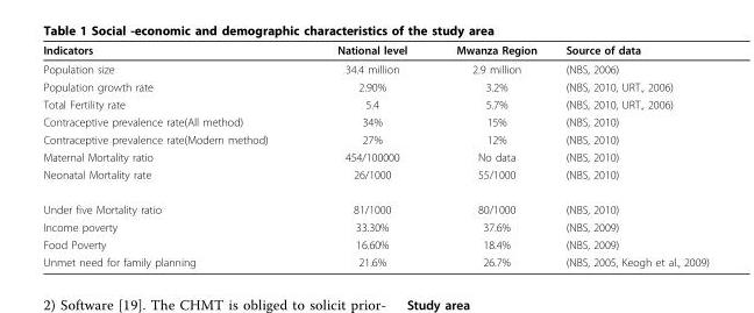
<table><thead><tr><td>Indicators</td><td>National level</td><td>Mwanza Region</td><td>Source of data</td></tr></thead><tbody><tr><td>Population size</td><td>34.4 million</td><td>2.9 million</td><td>(NBS, 2006)</td></tr><tr><td>Population growth rate</td><td>2.90%</td><td>3.2%</td><td>(NBS, 2010, URT., 2006)</td></tr><tr><td>Total Fertility rate</td><td>5.4</td><td>5.7%</td><td>(NBS, 2010, URT., 2006)</td></tr><tr><td>Contraceptive prevalence rate(All method)</td><td>34%</td><td>15%</td><td>(NBS, 2010)</td></tr><tr><td>Contraceptive prevalence rate(Modern method)</td><td>27%</td><td>12%</td><td>(NBS, 2010)</td></tr><tr><td>Maternal Mortality ratio</td><td>454/100000</td><td>No data</td><td>(NBS, 2010)</td></tr><tr><td>Neonatal Mortality rate</td><td>26/1000</td><td>55/1000</td><td>(NBS, 2010)</td></tr><tr><td>Under five Mortality ratio</td><td>81/1000</td><td>80/1000</td><td>(NBS, 2010)</td></tr><tr><td>Income poverty</td><td>33.30%</td><td>37.6%</td><td>(NBS, 2009)</td></tr><tr><td>Food Poverty</td><td>16.60%</td><td>18.4%</td><td>(NBS, 2009)</td></tr><tr><td>Unmet need for family planning</td><td>21.6%</td><td>26.7%</td><td>(NBS, 2005, Keogh et al., 2009)</td></tr></tbody></table>